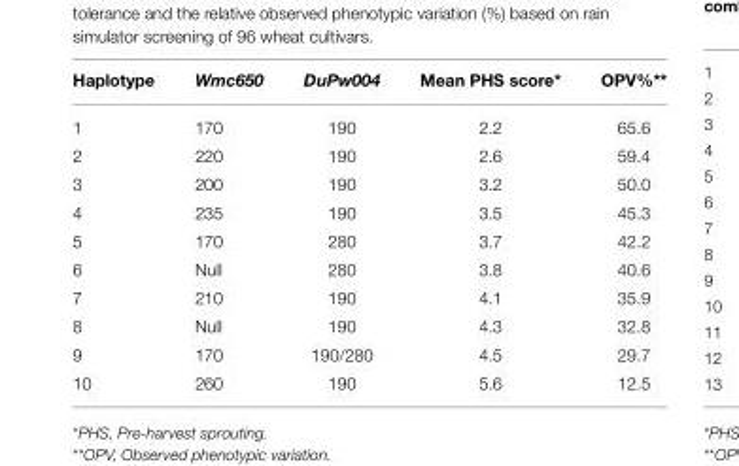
<table><thead><tr><td>Haplotype</td><td>Wmc650</td><td>DuPw004</td><td>Mean PHS score*</td><td>OPV%**</td></tr></thead><tbody><tr><td>1</td><td>170</td><td>190</td><td>2.2</td><td>65.6</td></tr><tr><td>2</td><td>220</td><td>190</td><td>2.6</td><td>59.4</td></tr><tr><td>3</td><td>200</td><td>190</td><td>3.2</td><td>50.0</td></tr><tr><td>4</td><td>235</td><td>190</td><td>3.5</td><td>45.3</td></tr><tr><td>5</td><td>170</td><td>280</td><td>3.7</td><td>42.2</td></tr><tr><td>6</td><td>Null</td><td>280</td><td>3.8</td><td>40.6</td></tr><tr><td>7</td><td>210</td><td>190</td><td>4.1</td><td>35.9</td></tr><tr><td>8</td><td>Null</td><td>190</td><td>4.3</td><td>32.8</td></tr><tr><td>9</td><td>170</td><td>190/280</td><td>4.5</td><td>29.7</td></tr><tr><td>10</td><td>260</td><td>190</td><td>5.6</td><td>12.5</td></tr></tbody></table>